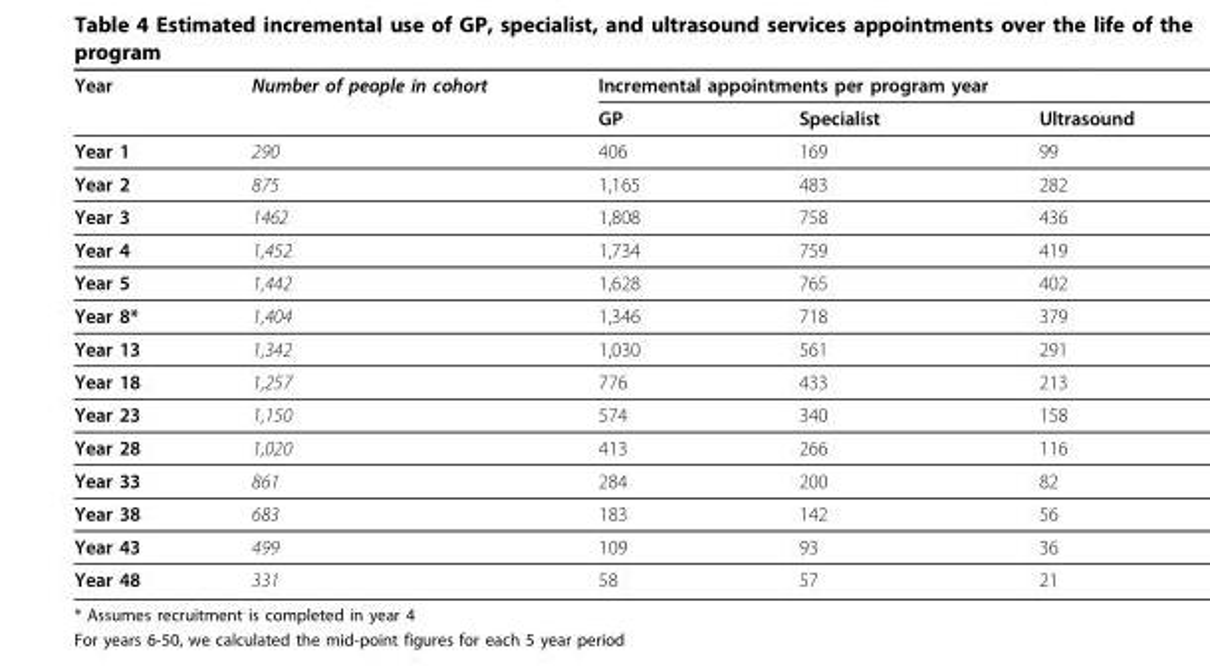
<table><thead><tr><td rowspan="2">Year</td><td rowspan="2">Number of people in cohort</td><td colspan="3">Incremental appointments per program year</td></tr><tr><td>GP</td><td>Specialist</td><td>Ultrasound</td></tr></thead><tbody><tr><td>Year 1</td><td>290</td><td>406</td><td>169</td><td>99</td></tr><tr><td>Year 2</td><td>875</td><td>1,165</td><td>483</td><td>282</td></tr><tr><td>Year 3</td><td>1462</td><td>1,808</td><td>758</td><td>436</td></tr><tr><td>Year 4</td><td>1,452</td><td>1,734</td><td>759</td><td>419</td></tr><tr><td>Year 5</td><td>1,442</td><td>1,628</td><td>765</td><td>402</td></tr><tr><td>Year 8*</td><td>1,404</td><td>1,346</td><td>718</td><td>379</td></tr><tr><td>Year 13</td><td>1,342</td><td>1,030</td><td>561</td><td>291</td></tr><tr><td>Year 18</td><td>1,257</td><td>776</td><td>433</td><td>213</td></tr><tr><td>Year 23</td><td>1,150</td><td>574</td><td>340</td><td>158</td></tr><tr><td>Year 28</td><td>1,020</td><td>413</td><td>266</td><td>116</td></tr><tr><td>Year 33</td><td>861</td><td>284</td><td>200</td><td>82</td></tr><tr><td>Year 38</td><td>683</td><td>183</td><td>142</td><td>56</td></tr><tr><td>Year 43</td><td>499</td><td>109</td><td>93</td><td>36</td></tr><tr><td>Year 48</td><td>331</td><td>58</td><td>57</td><td>21</td></tr></tbody></table>